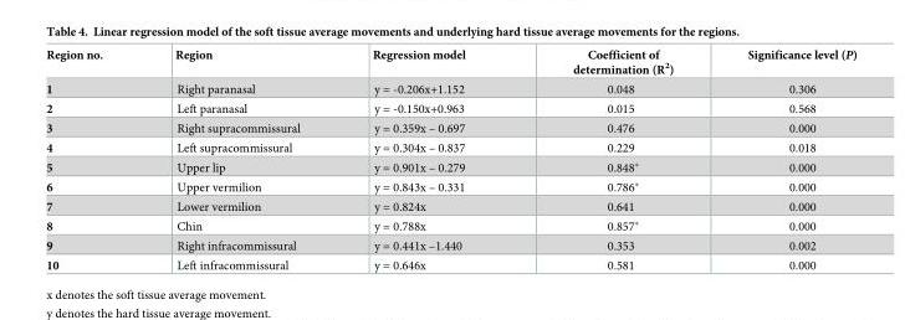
<table><thead><tr><td>Region no.</td><td>Region</td><td>Regression model</td><td>Coefficient of determination (R<sup>2</sup>)</td><td>Significance level (P)</td></tr></thead><tbody><tr><td>1</td><td>Right paranasal</td><td>y = -0.206x+1.152</td><td>0.048</td><td>0.306</td></tr><tr><td>2</td><td>Left paranasal</td><td>y = -0.150x+0.963</td><td>0.015</td><td>0.568</td></tr><tr><td>3</td><td>Right supracommissural</td><td>y = 0.359x – 0.697</td><td>0.476</td><td>0.000</td></tr><tr><td>4</td><td>Left supracommissural</td><td>y = 0.304x – 0.837</td><td>0.229</td><td>0.018</td></tr><tr><td>5</td><td>Upper lip</td><td>y = 0.901x – 0.279</td><td>0.848*</td><td>0.000</td></tr><tr><td>6</td><td>Upper vermilion</td><td>y = 0.843x – 0.331</td><td>0.786*</td><td>0.000</td></tr><tr><td>7</td><td>Lower vermilion</td><td>y = 0.824x</td><td>0.641</td><td>0.000</td></tr><tr><td>8</td><td>Chin</td><td>y = 0.788x</td><td>0.857*</td><td>0.000</td></tr><tr><td>9</td><td>Right infracommissural</td><td>y = 0.441x –1.440</td><td>0.353</td><td>0.002</td></tr><tr><td>10</td><td>Left infracommissural</td><td>y = 0.646x</td><td>0.581</td><td>0.000</td></tr></tbody></table>